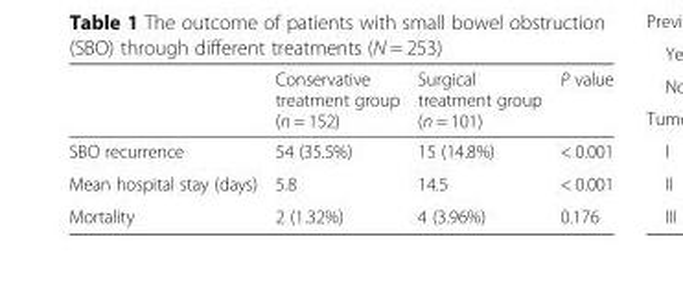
<table><thead><tr><td></td><td>Conservative treatment group (n = 152)</td><td>Surgical treatment group (n = 101)</td><td>P value</td></tr></thead><tbody><tr><td>SBO recurrence</td><td>54 (35.5%)</td><td>15 (14.8%)</td><td>&lt; 0.001</td></tr><tr><td>Mean hospital stay (days)</td><td>5.8</td><td>14.5</td><td>&lt; 0.001</td></tr><tr><td>Mortality</td><td>2 (1.32%)</td><td>4 (3.96%)</td><td>0.176</td></tr></tbody></table>